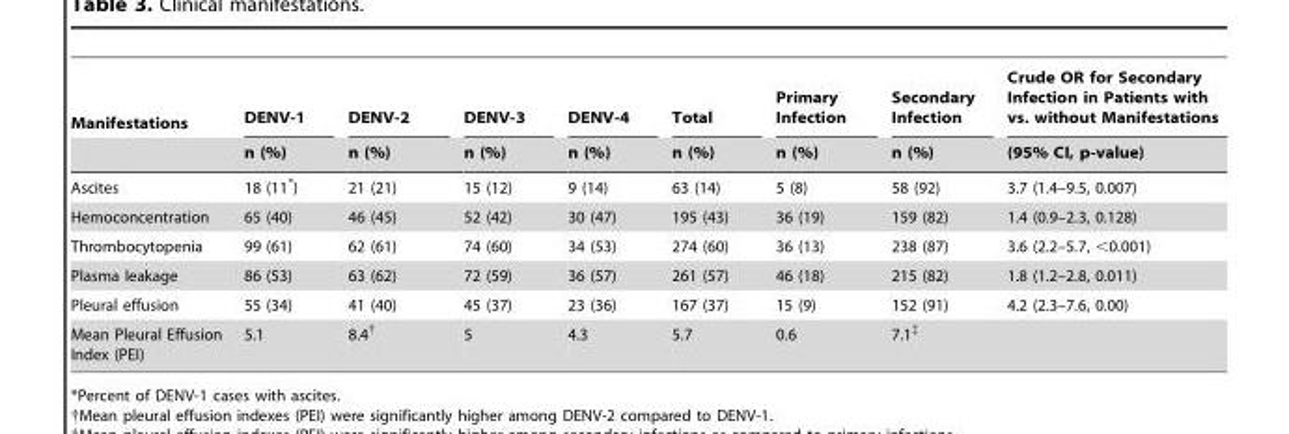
<table><thead><tr><td rowspan="2">Manifestations</td><td rowspan="2">DENV-1 n (%)</td><td rowspan="2">DENV-2 n (%)</td><td rowspan="2">DENV-3 n (%)</td><td rowspan="2">DENV-4 n (%)</td><td rowspan="2">Total n (%)</td><td rowspan="2">Primary Infection n (%)</td><td rowspan="2">Secondary Infection n (%)</td><td rowspan="2">Crude OR for Secondary Infection in Patients with vs. without Manifestations (95% CI, p-value)</td></tr><tr></tr></thead><tbody><tr><td>Ascites</td><td>18 (11*)</td><td>21 (21)</td><td>15 (12)</td><td>9 (14)</td><td>63 (14)</td><td>5 (8)</td><td>58 (92)</td><td>3.7 (1.4–9.5, 0.007)</td></tr><tr><td>Hemoconcentration</td><td>65 (40)</td><td>46 (45)</td><td>52 (42)</td><td>30 (47)</td><td>195 (43)</td><td>36 (19)</td><td>159 (82)</td><td>1.4 (0.9–2.3, 0.128)</td></tr><tr><td>Thrombocytopenia</td><td>99 (61)</td><td>62 (61)</td><td>74 (60)</td><td>34 (53)</td><td>274 (60)</td><td>36 (13)</td><td>238 (87)</td><td>3.6 (2.2–5.7, &lt;0.001)</td></tr><tr><td>Plasma leakage</td><td>86 (53)</td><td>63 (62)</td><td>72 (59)</td><td>36 (57)</td><td>261 (57)</td><td>46 (18)</td><td>215 (82)</td><td>1.8 (1.2–2.8, 0.011)</td></tr><tr><td>Pleural effusion</td><td>55 (34)</td><td>41 (40)</td><td>45 (37)</td><td>23 (36)</td><td>167 (37)</td><td>15 (9)</td><td>152 (91)</td><td>4.2 (2.3–7.6, 0.00)</td></tr><tr><td>Mean Pleural Effusion Index (PEI)</td><td>5.1</td><td>8.4†</td><td>5</td><td>4.3</td><td>5.7</td><td>0.6</td><td>7.1‡</td><td></td></tr></tbody></table>